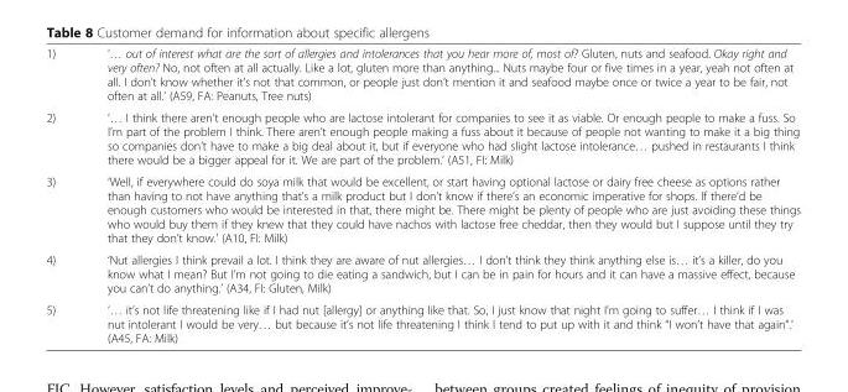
<table><tbody><tr><td>1)</td><td>‘… out of interest what are the sort of allergies and intolerances that you hear more of, most of? Gluten, nuts and seafood. Okay right and very often? No, not often at all actually. Like a lot, gluten more than anything... Nuts maybe four or five times in a year, yeah not often at all. I don’t know whether it’s not that common, or people just don’t mention it and seafood maybe once or twice a year to be fair, not often at all.’ (A59, FA: Peanuts, Tree nuts)</td></tr><tr><td>2)</td><td>‘… I think there aren’t enough people who are lactose intolerant for companies to see it as viable. Or enough people to make a fuss. So I’m part of the problem I think. There aren’t enough people making a fuss about it because of people not wanting to make it a big thing so companies don’t have to make a big deal about it, but if everyone who had slight lactose intolerance… pushed in restaurants I think there would be a bigger appeal for it. We are part of the problem.’ (A51, FI: Milk)</td></tr><tr><td>3)</td><td>‘Well, if everywhere could do soya milk that would be excellent, or start having optional lactose or dairy free cheese as options rather than having to not have anything that’s a milk product but I don’t know if there’s an economic imperative for shops. If there’d be enough customers who would be interested in that, there might be. There might be plenty of people who are just avoiding these things who would buy them if they knew that they could have nachos with lactose free cheddar, then they would but I suppose until they try that they don’t know.’ (A10, FI: Milk)</td></tr><tr><td>4)</td><td>‘Nut allergies I think prevail a lot. I think they are aware of nut allergies… I don’t think they think anything else is… it’s a killer, do you know what I mean? But I’m not going to die eating a sandwich, but I can be in pain for hours and it can have a massive effect, because you can’t do anything.’ (A34, FI: Gluten, Milk)</td></tr><tr><td>5)</td><td>‘… it’s not life threatening like if I had nut [allergy] or anything like that. So, I just know that night I’m going to suffer… I think if I was nut intolerant I would be very… but because it’s not life threatening I think I tend to put up with it and think “I won’t have that again”.’ (A45, FA: Milk)</td></tr></tbody></table>